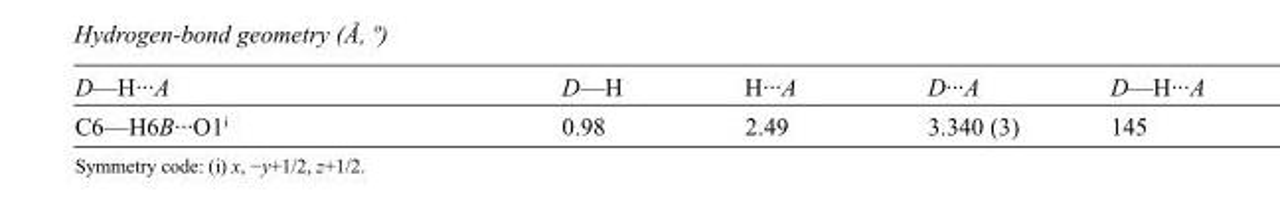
<table><tbody><tr><td>D—H···A</td><td>D—H</td><td>H···A</td><td>D···A</td><td>D—H···A</td></tr><tr><td>C6—H6B···O1<sup>i</sup></td><td>0.98</td><td>2.49</td><td>3.340 (3)</td><td>145</td></tr></tbody></table>